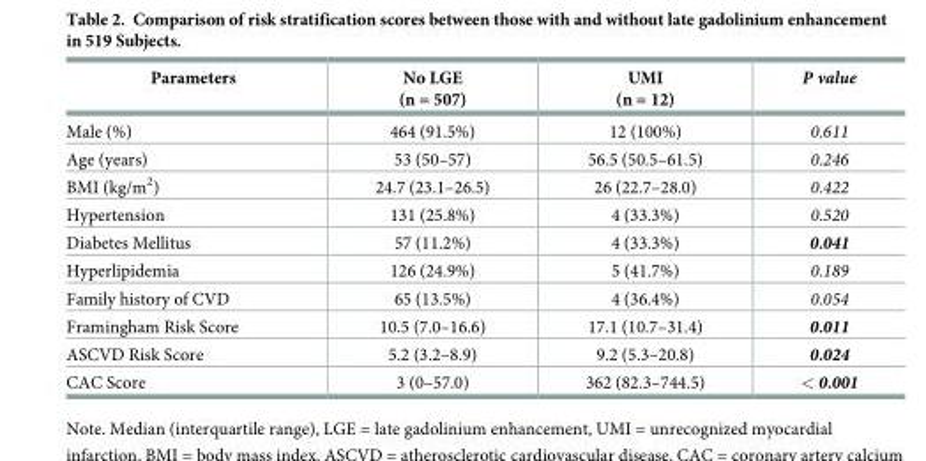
<table><thead><tr><td>Parameters</td><td>No LGE (n = 507)</td><td>UMI (n = 12)</td><td>P value</td></tr></thead><tbody><tr><td>Male (%)</td><td>464 (91.5%)</td><td>12 (100%)</td><td>0.611</td></tr><tr><td>Age (years)</td><td>53 (50–57)</td><td>56.5 (50.5–61.5)</td><td>0.246</td></tr><tr><td>BMI (kg/m<sup>2</sup>)</td><td>24.7 (23.1–26.5)</td><td>26 (22.7–28.0)</td><td>0.422</td></tr><tr><td>Hypertension</td><td>131 (25.8%)</td><td>4 (33.3%)</td><td>0.520</td></tr><tr><td>Diabetes Mellitus</td><td>57 (11.2%)</td><td>4 (33.3%)</td><td>0.041</td></tr><tr><td>Hyperlipidemia</td><td>126 (24.9%)</td><td>5 (41.7%)</td><td>0.189</td></tr><tr><td>Family history of CVD</td><td>65 (13.5%)</td><td>4 (36.4%)</td><td>0.054</td></tr><tr><td>Framingham Risk Score</td><td>10.5 (7.0–16.6)</td><td>17.1 (10.7–31.4)</td><td>0.011</td></tr><tr><td>ASCVD Risk Score</td><td>5.2 (3.2–8.9)</td><td>9.2 (5.3–20.8)</td><td>0.024</td></tr><tr><td>CAC Score</td><td>3 (0–57.0)</td><td>362 (82.3–744.5)</td><td>&lt; 0.001</td></tr></tbody></table>